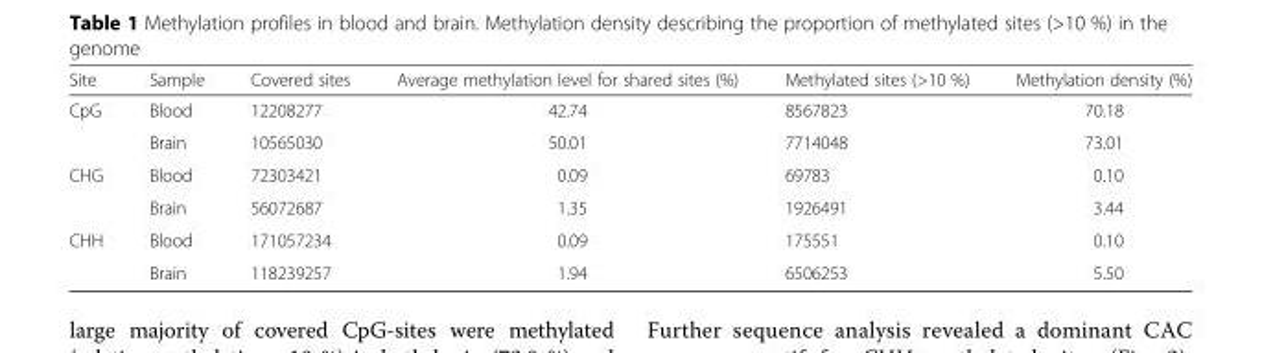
<table><thead><tr><td>Site</td><td>Sample</td><td>Covered sites</td><td>Average methylation level for shared sites (%)</td><td>Methylated sites (&gt;10 %)</td><td>Methylation density (%)</td></tr></thead><tbody><tr><td rowspan="2">CpG</td><td>Blood</td><td>12208277</td><td>42.74</td><td>8567823</td><td>70.18</td></tr><tr><td>Brain</td><td>10565030</td><td>50.01</td><td>7714048</td><td>73.01</td></tr><tr><td rowspan="2">CHG</td><td>Blood</td><td>72303421</td><td>0.09</td><td>69783</td><td>0.10</td></tr><tr><td>Brain</td><td>56072687</td><td>1.35</td><td>1926491</td><td>3.44</td></tr><tr><td rowspan="2">CHH</td><td>Blood</td><td>171057234</td><td>0.09</td><td>175551</td><td>0.10</td></tr><tr><td>Brain</td><td>118239257</td><td>1.94</td><td>6506253</td><td>5.50</td></tr></tbody></table>